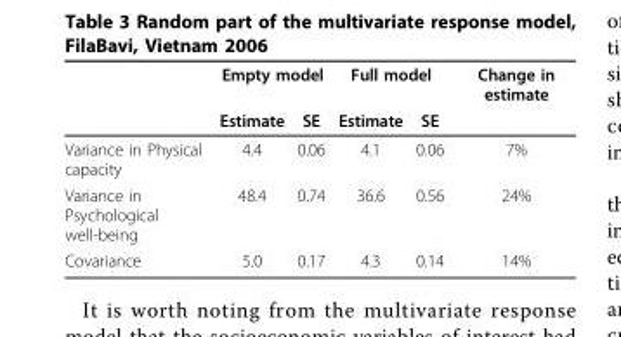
<table><thead><tr><td rowspan="2"></td><td colspan="2">Empty model</td><td colspan="2">Full model</td><td rowspan="2">Change in estimate</td></tr><tr><td>Estimate</td><td>SE</td><td>Estimate</td><td>SE</td></tr></thead><tbody><tr><td>Variance in Physical capacity</td><td>4.4</td><td>0.06</td><td>4.1</td><td>0.06</td><td>7%</td></tr><tr><td>Variance in Psychological well-being</td><td>48.4</td><td>0.74</td><td>36.6</td><td>0.56</td><td>24%</td></tr><tr><td>Covariance</td><td>5.0</td><td>0.17</td><td>4.3</td><td>0.14</td><td>14%</td></tr></tbody></table>